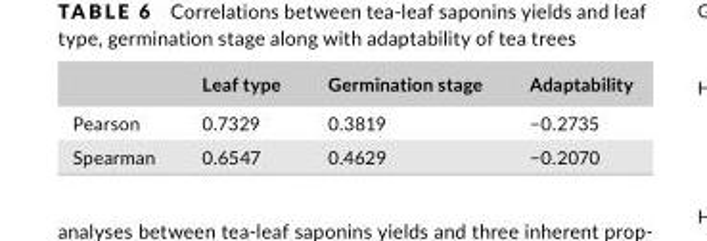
<table><thead><tr><td></td><td>Leaf type</td><td>Germination stage</td><td>Adaptability</td></tr></thead><tbody><tr><td>Pearson</td><td>0.7329</td><td>0.3819</td><td>−0.2735</td></tr><tr><td>Spearman</td><td>0.6547</td><td>0.4629</td><td>−0.2070</td></tr></tbody></table>